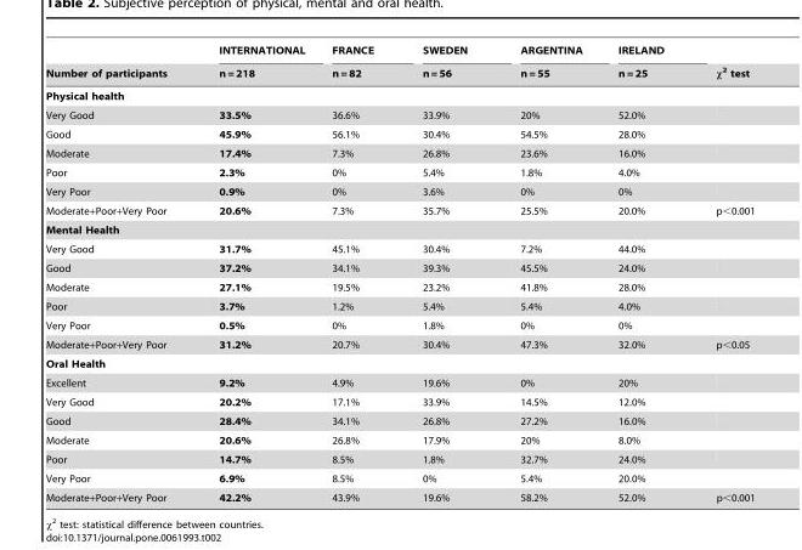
<table><thead><tr><td rowspan="2">Number of participants</td><td rowspan="2">INTERNATIONAL n = 218</td><td rowspan="2">FRANCE n = 82</td><td rowspan="2">SWEDEN n = 56</td><td rowspan="2">ARGENTINA n = 55</td><td rowspan="2">IRELAND n = 25</td><td rowspan="2">x2 test</td></tr><tr></tr></thead><tbody><tr><td colspan="7">Physical health</td></tr><tr><td>Very Good</td><td>33.5%</td><td>36.6%</td><td>33.9%</td><td>20%</td><td>52.0%</td><td></td></tr><tr><td>Good</td><td>45.9%</td><td>56.1%</td><td>30.4%</td><td>54.5%</td><td>28.0%</td><td></td></tr><tr><td>Moderate</td><td>17.4%</td><td>7.3%</td><td>26.8%</td><td>23.6%</td><td>16.0%</td><td></td></tr><tr><td>Poor</td><td>2.3%</td><td>0%</td><td>5.4%</td><td>1.8%</td><td>4.0%</td><td></td></tr><tr><td>Very Poor</td><td>0.9%</td><td>0%</td><td>3.6%</td><td>0%</td><td>0%</td><td></td></tr><tr><td>Moderate+Poor+Very Poor</td><td>20.6%</td><td>7.3%</td><td>35.7%</td><td>25.5%</td><td>20.0%</td><td>p&lt;0.001</td></tr><tr><td colspan="7">Mental Health</td></tr><tr><td>Very Good</td><td>31.7%</td><td>45.1%</td><td>30.4%</td><td>7.2%</td><td>44.0%</td><td></td></tr><tr><td>Good</td><td>37.2%</td><td>34.1%</td><td>39.3%</td><td>45.5%</td><td>24.0%</td><td></td></tr><tr><td>Moderate</td><td>27.1%</td><td>19.5%</td><td>23.2%</td><td>41.8%</td><td>28.0%</td><td></td></tr><tr><td>Poor</td><td>3.7%</td><td>1.2%</td><td>5.4%</td><td>5.4%</td><td>4.0%</td><td></td></tr><tr><td>Very Poor</td><td>0.5%</td><td>0%</td><td>1.8%</td><td>0%</td><td>0%</td><td></td></tr><tr><td>Moderate+Poor+Very Poor</td><td>31.2%</td><td>20.7%</td><td>30.4%</td><td>47.3%</td><td>32.0%</td><td>p&lt;0.05</td></tr><tr><td colspan="7">Oral Health</td></tr><tr><td>Excellent</td><td>9.2%</td><td>4.9%</td><td>19.6%</td><td>0%</td><td>20%</td><td></td></tr><tr><td>Very Good</td><td>20.2%</td><td>17.1%</td><td>33.9%</td><td>14.5%</td><td>12.0%</td><td></td></tr><tr><td>Good</td><td>28.4%</td><td>34.1%</td><td>26.8%</td><td>27.2%</td><td>16.0%</td><td></td></tr><tr><td>Moderate</td><td>20.6%</td><td>26.8%</td><td>17.9%</td><td>20%</td><td>8.0%</td><td></td></tr><tr><td>Poor</td><td>14.7%</td><td>8.5%</td><td>1.8%</td><td>32.7%</td><td>24.0%</td><td></td></tr><tr><td>Very Poor</td><td>6.9%</td><td>8.5%</td><td>0%</td><td>5.4%</td><td>20.0%</td><td></td></tr><tr><td>Moderate+Poor+Very Poor</td><td>42.2%</td><td>43.9%</td><td>19.6%</td><td>58.2%</td><td>52.0%</td><td>p&lt;0.001</td></tr></tbody></table>